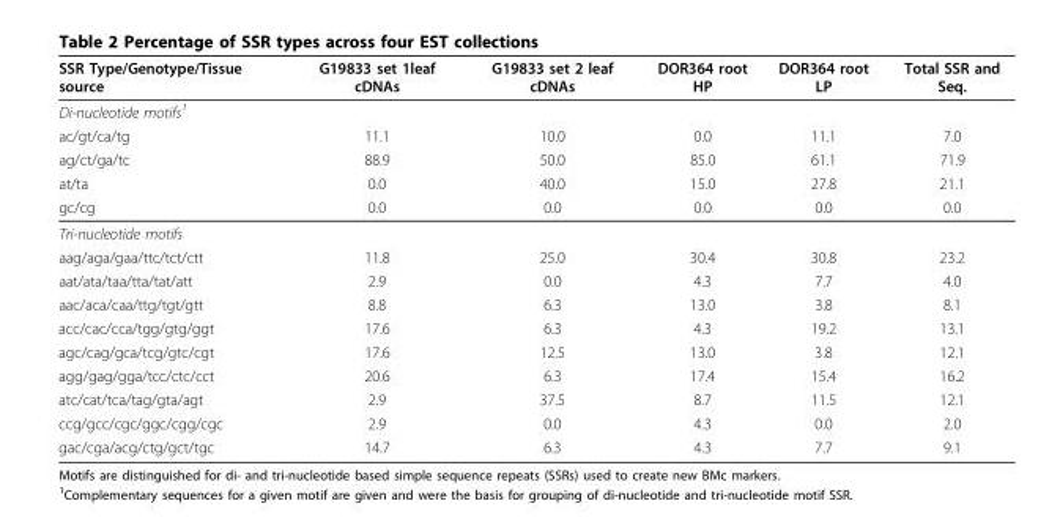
<table><thead><tr><td>SSR Type/Genotype/Tissue source</td><td>G19833 set 1leaf cDNAs</td><td>G19833 set 2 leaf cDNAs</td><td>DOR364 root HP</td><td>DOR364 root LP</td><td>Total SSR and Seq.</td></tr></thead><tbody><tr><td colspan="6">Di-nucleotide motifs<sup>1</sup></td></tr><tr><td>ac/gt/ca/tg</td><td>11.1</td><td>10.0</td><td>0.0</td><td>11.1</td><td>7.0</td></tr><tr><td>ag/ct/ga/tc</td><td>88.9</td><td>50.0</td><td>85.0</td><td>61.1</td><td>71.9</td></tr><tr><td>at/ta</td><td>0.0</td><td>40.0</td><td>15.0</td><td>27.8</td><td>21.1</td></tr><tr><td>gc/cg</td><td>0.0</td><td>0.0</td><td>0.0</td><td>0.0</td><td>0.0</td></tr><tr><td colspan="6">Tri-nucleotide motifs</td></tr><tr><td>aag/aga/gaa/ttc/tct/ctt</td><td>11.8</td><td>25.0</td><td>30.4</td><td>30.8</td><td>23.2</td></tr><tr><td>aat/ata/taa/tta/tat/att</td><td>2.9</td><td>0.0</td><td>4.3</td><td>7.7</td><td>4.0</td></tr><tr><td>aac/aca/caa/ttg/tgt/gtt</td><td>8.8</td><td>6.3</td><td>13.0</td><td>3.8</td><td>8.1</td></tr><tr><td>acc/cac/cca/tgg/gtg/ggt</td><td>17.6</td><td>6.3</td><td>4.3</td><td>19.2</td><td>13.1</td></tr><tr><td>agc/cag/gca/tcg/gtc/cgt</td><td>17.6</td><td>12.5</td><td>13.0</td><td>3.8</td><td>12.1</td></tr><tr><td>agg/gag/gga/tcc/ctc/cct</td><td>20.6</td><td>6.3</td><td>17.4</td><td>15.4</td><td>16.2</td></tr><tr><td>atc/cat/tca/tag/gta/agt</td><td>2.9</td><td>37.5</td><td>8.7</td><td>11.5</td><td>12.1</td></tr><tr><td>ccg/gcc/cgc/ggc/cgg/cgc</td><td>2.9</td><td>0.0</td><td>4.3</td><td>0.0</td><td>2.0</td></tr><tr><td>gac/cga/acg/ctg/gct/tgc</td><td>14.7</td><td>6.3</td><td>4.3</td><td>7.7</td><td>9.1</td></tr></tbody></table>